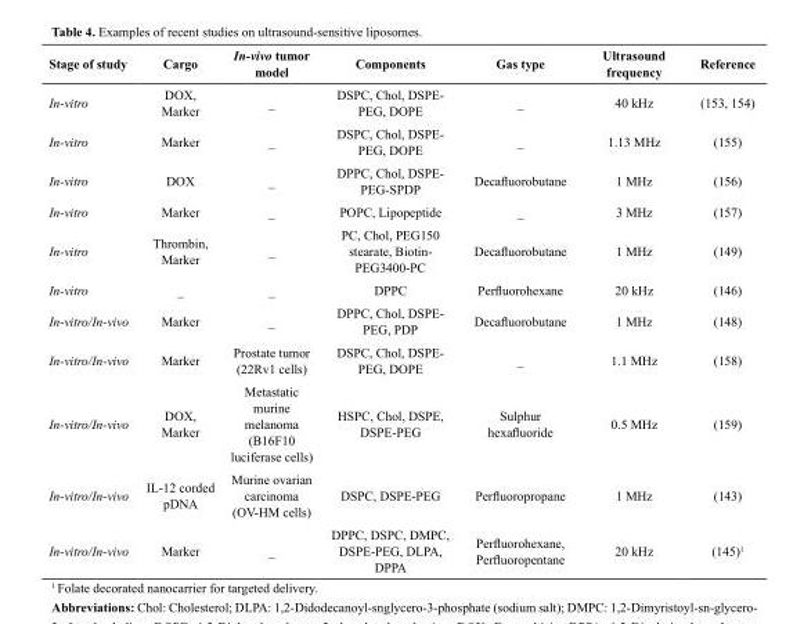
<table><thead><tr><td>Stage of study</td><td>Cargo</td><td>In-vivo tumor model</td><td>Components</td><td>Gas type</td><td>Ultrasound frequency</td><td>Reference</td></tr></thead><tbody><tr><td>In-vitro</td><td>DOX, Marker</td><td>_</td><td>DSPC, Chol, DSPE- PEG, DOPE</td><td>_</td><td>40 kHz</td><td>(153, 154)</td></tr><tr><td>In-vitro</td><td>Marker</td><td>_</td><td>DSPC, Chol, DSPE- PEG, DOPE</td><td>_</td><td>1.13 MHz</td><td>(155)</td></tr><tr><td>In-vitro</td><td>DOX</td><td>_</td><td>DPPC, Chol, DSPE- PEG-SPDP</td><td>Decafluorobutane</td><td>1 MHz</td><td>(156)</td></tr><tr><td>In-vitro</td><td>Marker</td><td>_</td><td>POPC, Lipopeptide</td><td>_</td><td>3 MHz</td><td>(157)</td></tr><tr><td>In-vitro</td><td>Thrombin, Marker</td><td>_</td><td>PC, Chol, PEG150 stearate, Biotin- PEG3400-PC</td><td>Decafluorobutane</td><td>1 MHz</td><td>(149)</td></tr><tr><td>In-vitro</td><td>_</td><td>_</td><td>DPPC</td><td>Perfluorohexane</td><td>20 kHz</td><td>(146)</td></tr><tr><td>In-vitro/In-vivo</td><td>Marker</td><td>_</td><td>DPPC, Chol, DSPE- PEG, PDP</td><td>Decafluorobutane</td><td>1 MHz</td><td>(148)</td></tr><tr><td>In-vitro/In-vivo</td><td>Marker</td><td>Prostate tumor (22Rv1 cells)</td><td>DSPC, Chol, DSPE- PEG, DOPE</td><td>_</td><td>1.1 MHz</td><td>(158)</td></tr><tr><td>In-vitro/In-vivo</td><td>DOX, Marker</td><td>Metastatic murine melanoma (B16F10 luciferase cells)</td><td>HSPC, Chol, DSPE, DSPE-PEG</td><td>Sulphur hexafluoride</td><td>0.5 MHz</td><td>(159)</td></tr><tr><td>In-vitro/In-vivo</td><td>IL-12 corded pDNA</td><td>Murine ovarian carcinoma (OV-HM cells)</td><td>DSPC, DSPE-PEG</td><td>Perfluoropropane</td><td>1 MHz</td><td>(143)</td></tr><tr><td>In-vitro/In-vivo</td><td>Marker</td><td>_</td><td>DPPC, DSPC, DMPC, DSPE-PEG, DLPA, DPPA</td><td>Perfluorohexane, Perfluoropentane</td><td>20 kHz</td><td>(145)<sup>1</sup></td></tr></tbody></table>